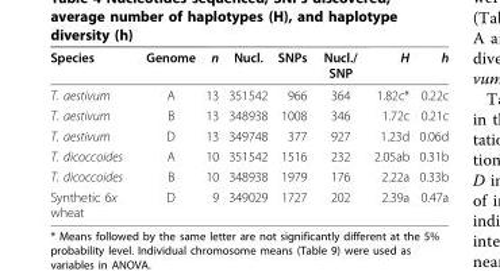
<table><thead><tr><td>Species</td><td>Genome</td><td>n</td><td>Nucl.</td><td>SNPs</td><td>Nucl./ SNP</td><td>H</td><td>h</td></tr></thead><tbody><tr><td>T. aestivum</td><td>A</td><td>13</td><td>351542</td><td>966</td><td>364</td><td>1.82c*</td><td>0.22c</td></tr><tr><td>T. aestivum</td><td>B</td><td>13</td><td>348938</td><td>1008</td><td>346</td><td>1.72c</td><td>0.21c</td></tr><tr><td>T. aestivum</td><td>D</td><td>13</td><td>349748</td><td>377</td><td>927</td><td>1.23d</td><td>0.06d</td></tr><tr><td>T. dicoccoides</td><td>A</td><td>10</td><td>351542</td><td>1516</td><td>232</td><td>2.05ab</td><td>0.31b</td></tr><tr><td>T. dicoccoides</td><td>B</td><td>10</td><td>348938</td><td>1979</td><td>176</td><td>2.22a</td><td>0.33b</td></tr><tr><td>Synthetic 6x wheat</td><td>D</td><td>9</td><td>349029</td><td>1727</td><td>202</td><td>2.39a</td><td>0.47a</td></tr></tbody></table>